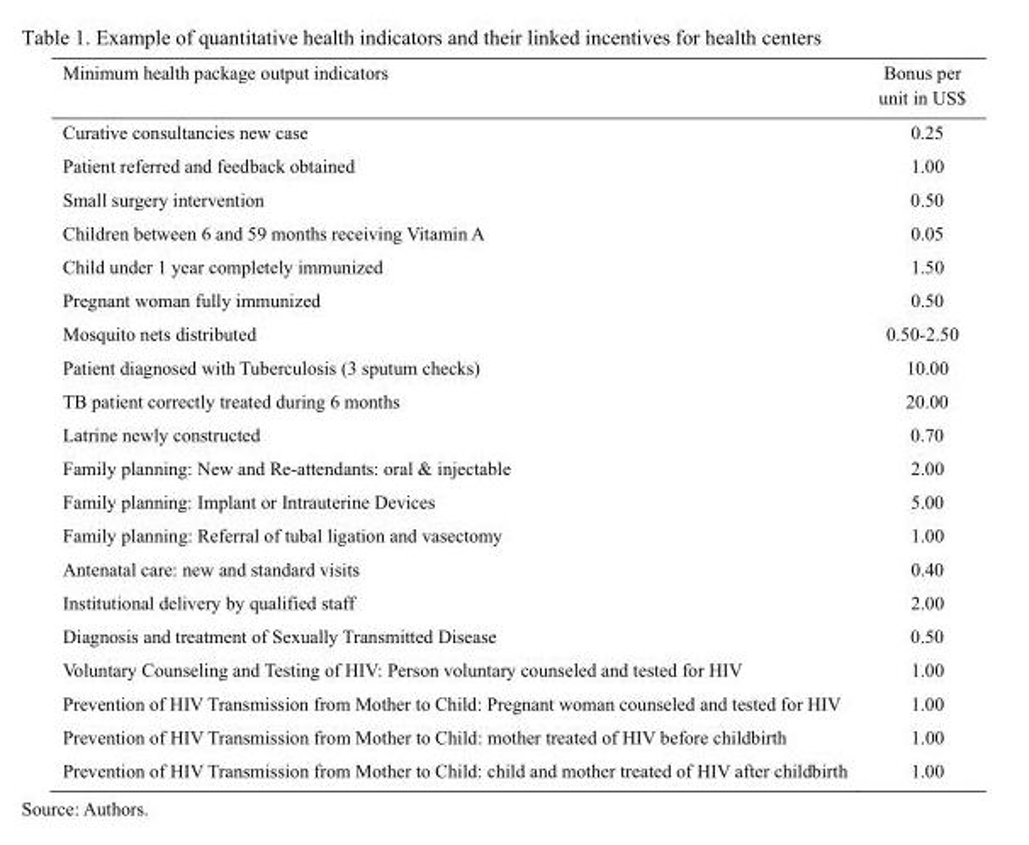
<table><thead><tr><td>Minimum health package output indicators</td><td>Bonus per unit in US$</td></tr></thead><tbody><tr><td>Curative consultancies new case</td><td>0.25</td></tr><tr><td>Patient referred and feedback obtained</td><td>1.00</td></tr><tr><td>Small surgery intervention</td><td>0.50</td></tr><tr><td>Children between 6 and 59 months receiving Vitamin A</td><td>0.05</td></tr><tr><td>Child under 1 year completely immunized</td><td>1.50</td></tr><tr><td>Pregnant woman fully immunized</td><td>0.50</td></tr><tr><td>Mosquito nets distributed</td><td>0.50-2.50</td></tr><tr><td>Patient diagnosed with Tuberculosis (3 sputum checks)</td><td>10.00</td></tr><tr><td>TB patient correctly treated during 6 months</td><td>20.00</td></tr><tr><td>Latrine newly constructed</td><td>0.70</td></tr><tr><td>Family planning: New and Re-attendants: oral &amp; injectable</td><td>2.00</td></tr><tr><td>Family planning: Implant or Intrauterine Devices</td><td>5.00</td></tr><tr><td>Family planning: Referral of tubal ligation and vasectomy</td><td>1.00</td></tr><tr><td>Antenatal care: new and standard visits</td><td>0.40</td></tr><tr><td>Institutional delivery by qualified staff</td><td>2.00</td></tr><tr><td>Diagnosis and treatment of Sexually Transmitted Disease</td><td>0.50</td></tr><tr><td>Voluntary Counseling and Testing of HIV: Person voluntary counseled and tested for HIV</td><td>1.00</td></tr><tr><td>Prevention of HIV Transmission from Mother to Child: Pregnant woman counseled and tested for HIV</td><td>1.00</td></tr><tr><td>Prevention of HIV Transmission from Mother to Child: mother treated of HIV before childbirth</td><td>1.00</td></tr><tr><td>Prevention of HIV Transmission from Mother to Child: child and mother treated of HIV after childbirth</td><td>1.00</td></tr></tbody></table>